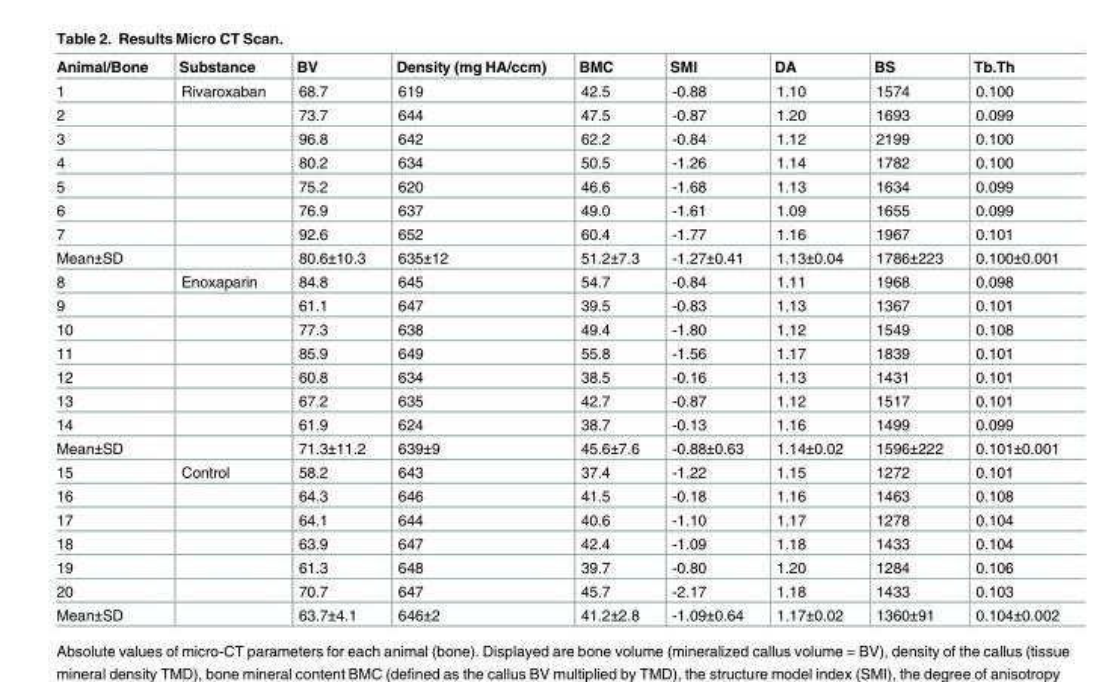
<table><thead><tr><td>Animal/Bone</td><td>Substance</td><td>BV</td><td>Density (mg HA/ccm)</td><td>BMC</td><td>SMI</td><td>DA</td><td>BS</td><td>Tb.Th</td></tr></thead><tbody><tr><td>1</td><td>Rivaroxaban</td><td>68.7</td><td>619</td><td>42.5</td><td>-0.88</td><td>1.10</td><td>1574</td><td>0.100</td></tr><tr><td>2</td><td></td><td>73.7</td><td>644</td><td>47.5</td><td>-0.87</td><td>1.20</td><td>1693</td><td>0.099</td></tr><tr><td>3</td><td></td><td>96.8</td><td>642</td><td>62.2</td><td>-0.84</td><td>1.12</td><td>2199</td><td>0.100</td></tr><tr><td>4</td><td></td><td>80.2</td><td>634</td><td>50.5</td><td>-1.26</td><td>1.14</td><td>1782</td><td>0.100</td></tr><tr><td>5</td><td></td><td>75.2</td><td>620</td><td>46.6</td><td>-1.68</td><td>1.13</td><td>1634</td><td>0.099</td></tr><tr><td>6</td><td></td><td>76.9</td><td>637</td><td>49.0</td><td>-1.61</td><td>1.09</td><td>1655</td><td>0.099</td></tr><tr><td>7</td><td></td><td>92.6</td><td>652</td><td>60.4</td><td>-1.77</td><td>1.16</td><td>1967</td><td>0.101</td></tr><tr><td>Mean±SD</td><td></td><td>80.6±10.3</td><td>635±12</td><td>51.2±7.3</td><td>-1.27±0.41</td><td>1.13±0.04</td><td>1786±223</td><td>0.100±0.001</td></tr><tr><td>8</td><td>Enoxaparin</td><td>84.8</td><td>645</td><td>54.7</td><td>-0.84</td><td>1.11</td><td>1968</td><td>0.098</td></tr><tr><td>9</td><td></td><td>61.1</td><td>647</td><td>39.5</td><td>-0.83</td><td>1.13</td><td>1367</td><td>0.101</td></tr><tr><td>10</td><td></td><td>77.3</td><td>638</td><td>49.4</td><td>-1.80</td><td>1.12</td><td>1549</td><td>0.108</td></tr><tr><td>11</td><td></td><td>85.9</td><td>649</td><td>55.8</td><td>-1.56</td><td>1.17</td><td>1839</td><td>0.101</td></tr><tr><td>12</td><td></td><td>60.8</td><td>634</td><td>38.5</td><td>-0.16</td><td>1.13</td><td>1431</td><td>0.101</td></tr><tr><td>13</td><td></td><td>67.2</td><td>635</td><td>42.7</td><td>-0.87</td><td>1.12</td><td>1517</td><td>0.101</td></tr><tr><td>14</td><td></td><td>61.9</td><td>624</td><td>38.7</td><td>-0.13</td><td>1.16</td><td>1499</td><td>0.099</td></tr><tr><td>Mean±SD</td><td></td><td>71.3±11.2</td><td>639±9</td><td>45.6±7.6</td><td>-0.88±0.63</td><td>1.14±0.02</td><td>1596±222</td><td>0.101±0.001</td></tr><tr><td>15</td><td>Control</td><td>58.2</td><td>643</td><td>37.4</td><td>-1.22</td><td>1.15</td><td>1272</td><td>0.101</td></tr><tr><td>16</td><td></td><td>64.3</td><td>646</td><td>41.5</td><td>-0.18</td><td>1.16</td><td>1463</td><td>0.108</td></tr><tr><td>17</td><td></td><td>64.1</td><td>644</td><td>40.6</td><td>-1.10</td><td>1.17</td><td>1278</td><td>0.104</td></tr><tr><td>18</td><td></td><td>63.9</td><td>647</td><td>42.4</td><td>-1.09</td><td>1.18</td><td>1433</td><td>0.104</td></tr><tr><td>19</td><td></td><td>61.3</td><td>648</td><td>39.7</td><td>-0.80</td><td>1.20</td><td>1284</td><td>0.106</td></tr><tr><td>20</td><td></td><td>70.7</td><td>647</td><td>45.7</td><td>-2.17</td><td>1.18</td><td>1433</td><td>0.103</td></tr><tr><td>Mean±SD</td><td></td><td>63.7±4.1</td><td>646±2</td><td>41.2±2.8</td><td>-1.09±0.64</td><td>1.17±0.02</td><td>1360±91</td><td>0.104±0.002</td></tr></tbody></table>